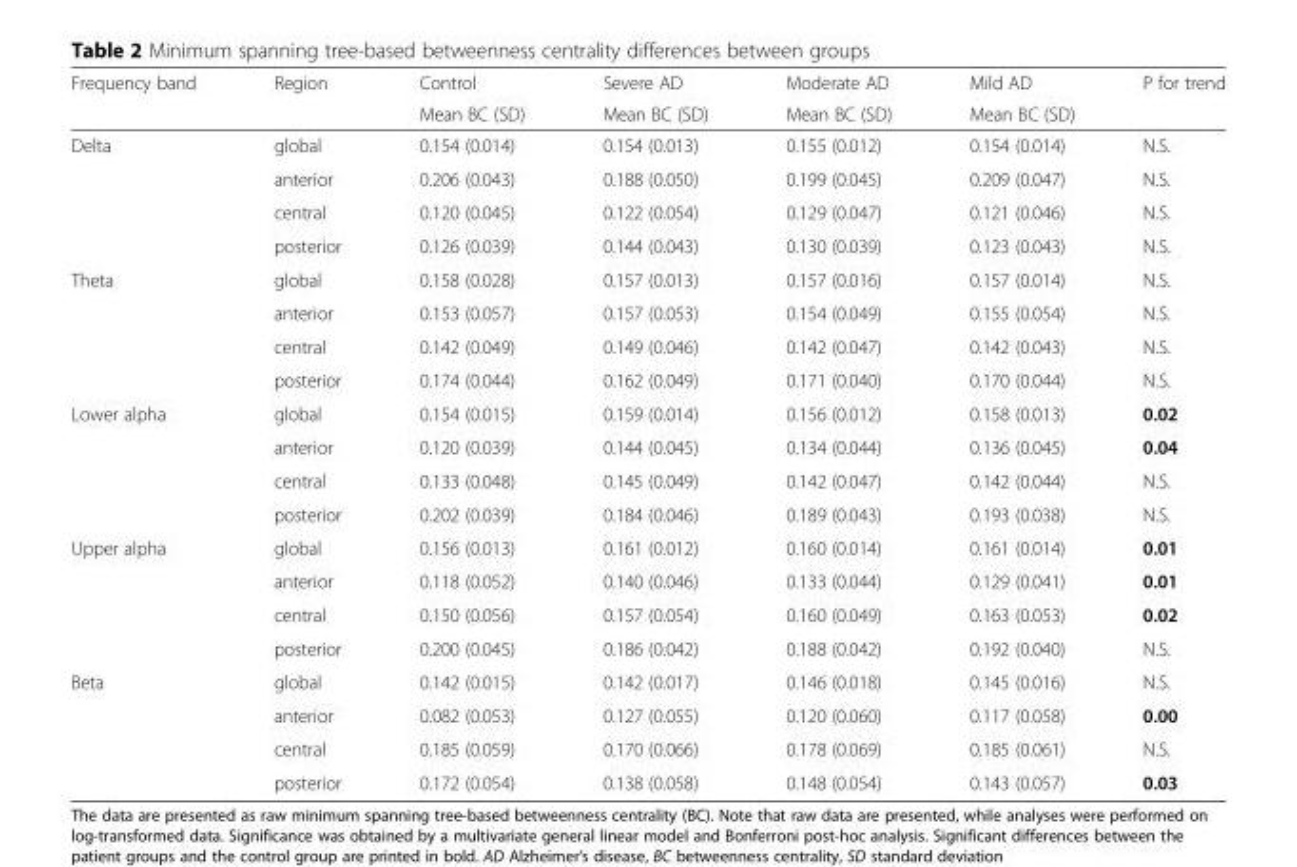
<table><thead><tr><td rowspan="2">Frequency band</td><td rowspan="2">Region</td><td rowspan="2">Control Mean BC (SD)</td><td rowspan="2">Severe AD Mean BC (SD)</td><td rowspan="2">Moderate AD Mean BC (SD)</td><td>Mild AD</td><td>P for trend</td></tr><tr><td colspan="2">Mean BC (SD)</td></tr></thead><tbody><tr><td rowspan="4">Delta</td><td>global</td><td>0.154 (0.014)</td><td>0.154 (0.013)</td><td>0.155 (0.012)</td><td>0.154 (0.014)</td><td>N.S.</td></tr><tr><td>anterior</td><td>0.206 (0.043)</td><td>0.188 (0.050)</td><td>0.199 (0.045)</td><td>0.209 (0.047)</td><td>N.S.</td></tr><tr><td>central</td><td>0.120 (0.045)</td><td>0.122 (0.054)</td><td>0.129 (0.047)</td><td>0.121 (0.046)</td><td>N.S.</td></tr><tr><td>posterior</td><td>0.126 (0.039)</td><td>0.144 (0.043)</td><td>0.130 (0.039)</td><td>0.123 (0.043)</td><td>N.S.</td></tr><tr><td rowspan="4">Theta</td><td>global</td><td>0.158 (0.028)</td><td>0.157 (0.013)</td><td>0.157 (0.016)</td><td>0.157 (0.014)</td><td>N.S.</td></tr><tr><td>anterior</td><td>0.153 (0.057)</td><td>0.157 (0.053)</td><td>0.154 (0.049)</td><td>0.155 (0.054)</td><td>N.S.</td></tr><tr><td>central</td><td>0.142 (0.049)</td><td>0.149 (0.046)</td><td>0.142 (0.047)</td><td>0.142 (0.043)</td><td>N.S.</td></tr><tr><td>posterior</td><td>0.174 (0.044)</td><td>0.162 (0.049)</td><td>0.171 (0.040)</td><td>0.170 (0.044)</td><td>N.S.</td></tr><tr><td rowspan="4">Lower alpha</td><td>global</td><td>0.154 (0.015)</td><td>0.159 (0.014)</td><td>0.156 (0.012)</td><td>0.158 (0.013)</td><td>0.02</td></tr><tr><td>anterior</td><td>0.120 (0.039)</td><td>0.144 (0.045)</td><td>0.134 (0.044)</td><td>0.136 (0.045)</td><td>0.04</td></tr><tr><td>central</td><td>0.133 (0.048)</td><td>0.145 (0.049)</td><td>0.142 (0.047)</td><td>0.142 (0.044)</td><td>N.S.</td></tr><tr><td>posterior</td><td>0.202 (0.039)</td><td>0.184 (0.046)</td><td>0.189 (0.043)</td><td>0.193 (0.038)</td><td>N.S.</td></tr><tr><td rowspan="4">Upper alpha</td><td>global</td><td>0.156 (0.013)</td><td>0.161 (0.012)</td><td>0.160 (0.014)</td><td>0.161 (0.014)</td><td>0.01</td></tr><tr><td>anterior</td><td>0.118 (0.052)</td><td>0.140 (0.046)</td><td>0.133 (0.044)</td><td>0.129 (0.041)</td><td>0.01</td></tr><tr><td>central</td><td>0.150 (0.056)</td><td>0.157 (0.054)</td><td>0.160 (0.049)</td><td>0.163 (0.053)</td><td>0.02</td></tr><tr><td>posterior</td><td>0.200 (0.045)</td><td>0.186 (0.042)</td><td>0.188 (0.042)</td><td>0.192 (0.040)</td><td>N.S.</td></tr><tr><td rowspan="4">Beta</td><td>global</td><td>0.142 (0.015)</td><td>0.142 (0.017)</td><td>0.146 (0.018)</td><td>0.145 (0.016)</td><td>N.S.</td></tr><tr><td>anterior</td><td>0.082 (0.053)</td><td>0.127 (0.055)</td><td>0.120 (0.060)</td><td>0.117 (0.058)</td><td>0.00</td></tr><tr><td>central</td><td>0.185 (0.059)</td><td>0.170 (0.066)</td><td>0.178 (0.069)</td><td>0.185 (0.061)</td><td>N.S.</td></tr><tr><td>posterior</td><td>0.172 (0.054)</td><td>0.138 (0.058)</td><td>0.148 (0.054)</td><td>0.143 (0.057)</td><td>0.03</td></tr></tbody></table>